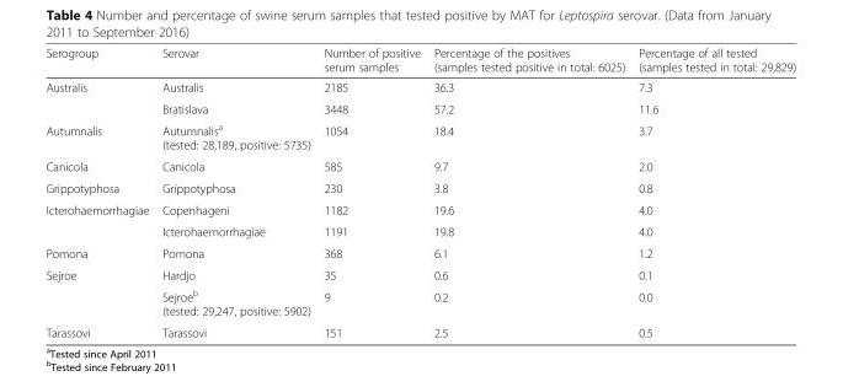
<table><thead><tr><td>Serogroup</td><td>Serovar</td><td>Number of positive serum samples</td><td>Percentage of the positives (samples tested positive in total: 6025)</td><td>Percentage of all tested (samples tested in total: 29,829)</td></tr></thead><tbody><tr><td rowspan="2">Australis</td><td>Australis</td><td>2185</td><td>36.3</td><td>7.3</td></tr><tr><td>Bratislava</td><td>3448</td><td>57.2</td><td>11.6</td></tr><tr><td>Autumnalis</td><td>Autumnalis<sup>a</sup> (tested: 28,189, positive: 5735)</td><td>1054</td><td>18.4</td><td>3.7</td></tr><tr><td>Canicola</td><td>Canicola</td><td>585</td><td>9.7</td><td>2.0</td></tr><tr><td>Grippotyphosa</td><td>Grippotyphosa</td><td>230</td><td>3.8</td><td>0.8</td></tr><tr><td rowspan="2">Icterohaemorrhagiae</td><td>Copenhageni</td><td>1182</td><td>19.6</td><td>4.0</td></tr><tr><td>Icterohaemorrhagiae</td><td>1191</td><td>19.8</td><td>4.0</td></tr><tr><td>Pomona</td><td>Pomona</td><td>368</td><td>6.1</td><td>1.2</td></tr><tr><td rowspan="2">Sejroe</td><td>Hardjo</td><td>35</td><td>0.6</td><td>0.1</td></tr><tr><td>Sejroe<sup>b</sup> (tested: 29,247, positive: 5902)</td><td>9</td><td>0.2</td><td>0.0</td></tr><tr><td>Tarassovi</td><td>Tarassovi</td><td>151</td><td>2.5</td><td>0.5</td></tr></tbody></table>